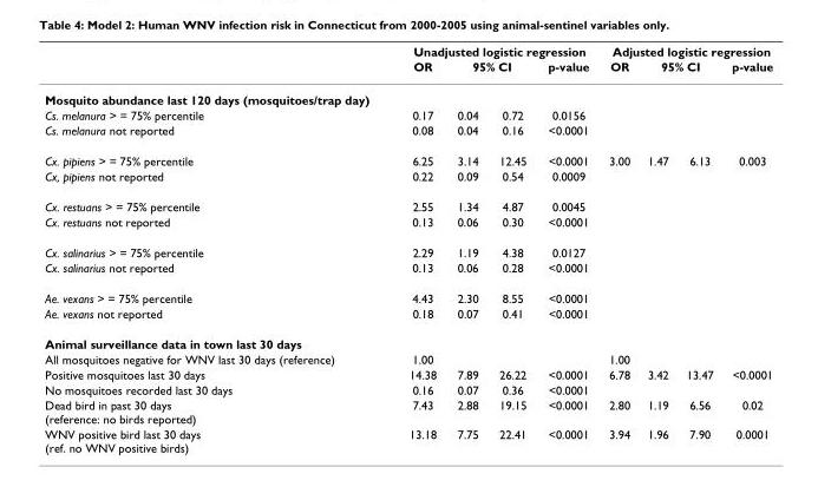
<table><thead><tr><td rowspan="3">Mosquito abundance last 120 days (mosquitoes/trap day)</td><td colspan="4">Unadjusted logistic regression</td><td colspan="4">Adjusted logistic regression</td></tr><tr><td rowspan="2">OR</td><td colspan="2">95% CI</td><td rowspan="2">p-value</td><td rowspan="2">OR</td><td colspan="2">95% CI</td><td rowspan="2">p-value</td></tr><tr><td></td><td></td><td></td><td></td></tr></thead><tbody><tr><td>Cs. melanura &gt; = 75% percentile</td><td>0.17</td><td>0.04</td><td>0.72</td><td>0.0156</td><td></td><td></td><td></td><td></td></tr><tr><td>Cs. melanura not reported</td><td>0.08</td><td>0.04</td><td>0.16</td><td>&lt;0.0001</td><td></td><td></td><td></td><td></td></tr><tr><td>Cx. pipiens &gt; = 75% percentile</td><td>6.25</td><td>3.14</td><td>12.45</td><td>&lt;0.0001</td><td>3.00</td><td>1.47</td><td>6.13</td><td>0.003</td></tr><tr><td>Cx, pipiens not reported</td><td>0.22</td><td>0.09</td><td>0.54</td><td>0.0009</td><td></td><td></td><td></td><td></td></tr><tr><td>Cx. restuans &gt; = 75% percentile</td><td>2.55</td><td>1.34</td><td>4.87</td><td>0.0045</td><td></td><td></td><td></td><td></td></tr><tr><td>Cx. restuans not reported</td><td>0.13</td><td>0.06</td><td>0.30</td><td>&lt;0.0001</td><td></td><td></td><td></td><td></td></tr><tr><td>Cx. salinarius &gt; = 75% percentile</td><td>2.29</td><td>1.19</td><td>4.38</td><td>0.0127</td><td></td><td></td><td></td><td></td></tr><tr><td>Cx. salinarius not reported</td><td>0.13</td><td>0.06</td><td>0.28</td><td>&lt;0.0001</td><td></td><td></td><td></td><td></td></tr><tr><td>Ae. vexans &gt; = 75% percentile</td><td>4.43</td><td>2.30</td><td>8.55</td><td>&lt;0.0001</td><td></td><td></td><td></td><td></td></tr><tr><td>Ae. vexans not reported</td><td>0.18</td><td>0.07</td><td>0.41</td><td>&lt;0.0001</td><td></td><td></td><td></td><td></td></tr><tr><td colspan="9">Animal surveillance data in town last 30 days</td></tr><tr><td>All mosquitoes negative for WNV last 30 days (reference)</td><td>1.00</td><td></td><td></td><td></td><td>1.00</td><td></td><td></td><td></td></tr><tr><td>Positive mosquitoes last 30 days</td><td>14.38</td><td>7.89</td><td>26.22</td><td>&lt;0.0001</td><td>6.78</td><td>3.42</td><td>13.47</td><td>&lt;0.0001</td></tr><tr><td>No mosquitoes recorded last 30 days</td><td>0.16</td><td>0.07</td><td>0.36</td><td>&lt;0.0001</td><td></td><td></td><td></td><td></td></tr><tr><td>Dead bird in past 30 days (reference: no birds reported)</td><td>7.43</td><td>2.88</td><td>19.15</td><td>&lt;0.0001</td><td>2.80</td><td>1.19</td><td>6.56</td><td>0.02</td></tr><tr><td>WNV positive bird last 30 days (ref. no WNV positive birds)</td><td>13.18</td><td>7.75</td><td>22.41</td><td>&lt;0.0001</td><td>3.94</td><td>1.96</td><td>7.90</td><td>0.0001</td></tr></tbody></table>